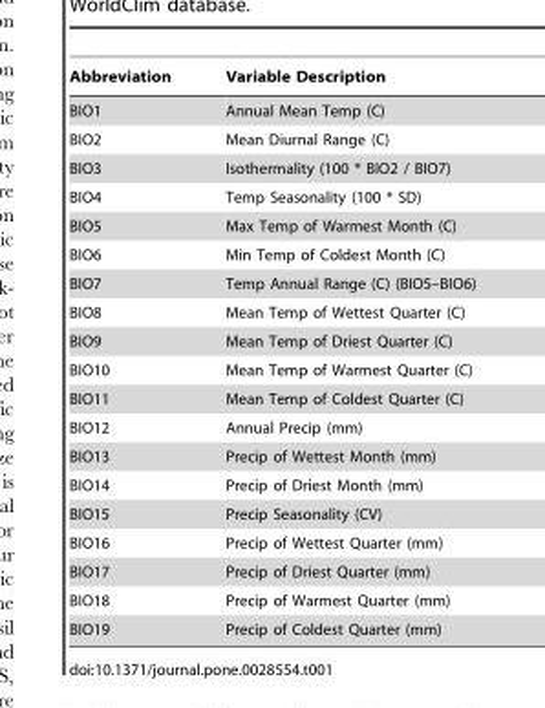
<table><thead><tr><td>Abbreviation</td><td>Variable Description</td></tr></thead><tbody><tr><td>BIO1</td><td>Annual Mean Temp (C)</td></tr><tr><td>BIO2</td><td>Mean Diurnal Range (C)</td></tr><tr><td>BIO3</td><td>Isothermality (100 * BIO2 / BIO7)</td></tr><tr><td>BIO4</td><td>Temp Seasonality (100 * SD)</td></tr><tr><td>BIO5</td><td>Max Temp of Warmest Month (C)</td></tr><tr><td>BIO6</td><td>Min Temp of Coldest Month (C)</td></tr><tr><td>BIO7</td><td>Temp Annual Range (C) (BIO5–BIO6)</td></tr><tr><td>BIO8</td><td>Mean Temp of Wettest Quarter (C)</td></tr><tr><td>BIO9</td><td>Mean Temp of Driest Quarter (C)</td></tr><tr><td>BIO10</td><td>Mean Temp of Warmest Quarter (C)</td></tr><tr><td>BIO11</td><td>Mean Temp of Coldest Quarter (C)</td></tr><tr><td>BIO12</td><td>Annual Precip (mm)</td></tr><tr><td>BIO13</td><td>Precip of Wettest Month (mm)</td></tr><tr><td>BIO14</td><td>Precip of Driest Month (mm)</td></tr><tr><td>BIO15</td><td>Precip Seasonality (CV)</td></tr><tr><td>BIO16</td><td>Precip of Wettest Quarter (mm)</td></tr><tr><td>BIO17</td><td>Precip of Driest Quarter (mm)</td></tr><tr><td>BIO18</td><td>Precip of Warmest Quarter (mm)</td></tr><tr><td>BIO19</td><td>Precip of Coldest Quarter (mm)</td></tr></tbody></table>